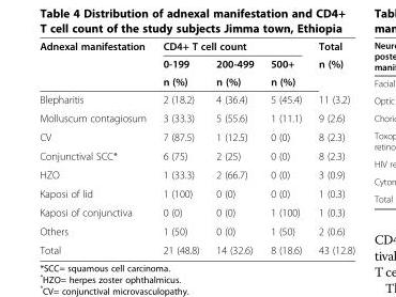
<table><thead><tr><td rowspan="3">Adnexal manifestation</td><td colspan="3">CD4+ T cell count</td><td rowspan="3">Total n (%)</td></tr><tr><td rowspan="2">0-199 n (%)</td><td rowspan="2">200-499 n (%)</td><td rowspan="2">500+ n (%)</td></tr><tr></tr></thead><tbody><tr><td>Blepharitis</td><td>2 (18.2)</td><td>4 (36.4)</td><td>5 (45.4)</td><td>11 (3.2)</td></tr><tr><td>Molluscum contagiosum</td><td>3 (33.3)</td><td>5 (55.6)</td><td>1 (11.1)</td><td>9 (2.6)</td></tr><tr><td>CV</td><td>7 (87.5)</td><td>1 (12.5)</td><td>0 (0)</td><td>8 (2.3)</td></tr><tr><td>Conjunctival SCC*</td><td>6 (75)</td><td>2 (25)</td><td>0 (0)</td><td>8 (2.3)</td></tr><tr><td>HZO</td><td>1 (33.3)</td><td>2 (66.7)</td><td>0 (0)</td><td>3 (0.9)</td></tr><tr><td>Kaposi of lid</td><td>1 (100)</td><td>0 (0)</td><td>0 (0)</td><td>1 (0.3)</td></tr><tr><td>Kaposi of conjunctiva</td><td>0 (0)</td><td>0 (0)</td><td>1 (100)</td><td>1 (0.3)</td></tr><tr><td>Others</td><td>1 (50)</td><td>0 (0)</td><td>1 (50)</td><td>2 (0.6)</td></tr><tr><td>Total</td><td>21 (48.8)</td><td>14 (32.6)</td><td>8 (18.6)</td><td>43 (12.8)</td></tr></tbody></table>